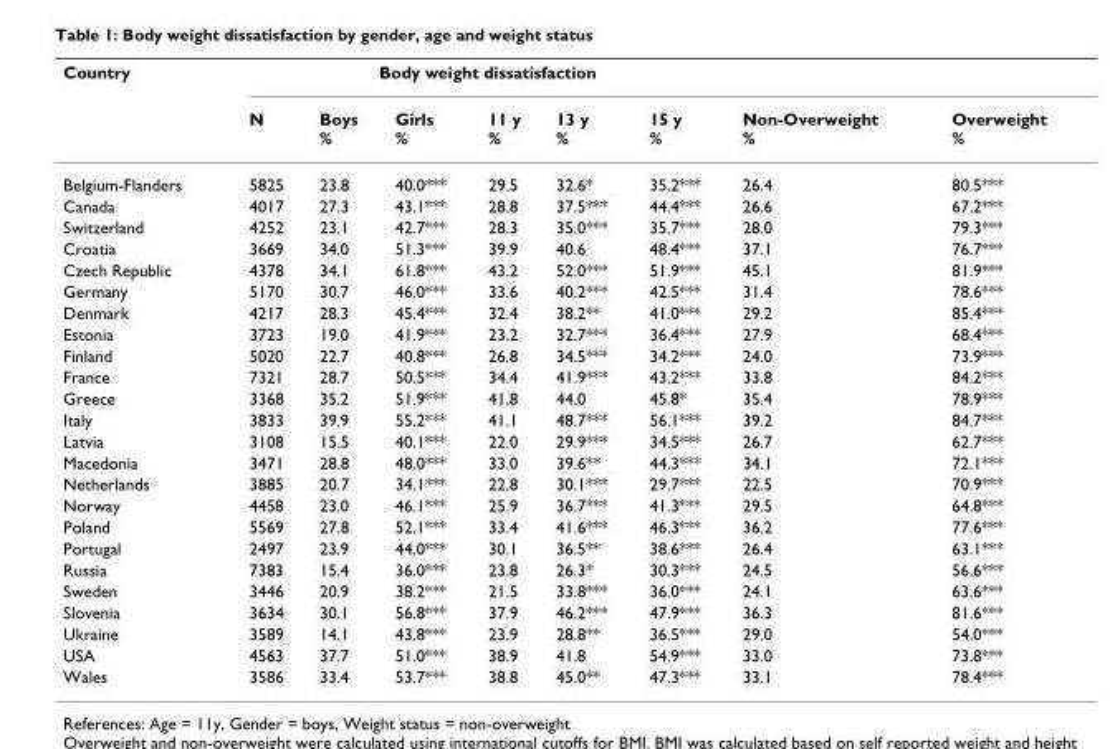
<table><thead><tr><td rowspan="2">Country</td><td colspan="6">Body weight dissatisfaction</td><td rowspan="2">Non-Overweight %</td><td rowspan="2">Overweight %</td></tr><tr><td>N</td><td>Boys %</td><td>Girls %</td><td>11 y %</td><td>13 y %</td><td>15 y %</td></tr></thead><tbody><tr><td>Belgium-Flanders</td><td>5825</td><td>23.8</td><td>40.0***</td><td>29.5</td><td>32.6*</td><td>35.2***</td><td>26.4</td><td>80.5***</td></tr><tr><td>Canada</td><td>4017</td><td>27.3</td><td>43.1***</td><td>28.8</td><td>37.5***</td><td>44.4***</td><td>26.6</td><td>67.2***</td></tr><tr><td>Switzerland</td><td>4252</td><td>23.1</td><td>42.7***</td><td>28.3</td><td>35.0***</td><td>35.7***</td><td>28.0</td><td>79.3***</td></tr><tr><td>Croatia</td><td>3669</td><td>34.0</td><td>51.3***</td><td>39.9</td><td>40.6</td><td>48.4***</td><td>37.1</td><td>76.7***</td></tr><tr><td>Czech Republic</td><td>4378</td><td>34.1</td><td>61.8***</td><td>43.2</td><td>52.0***</td><td>51.9***</td><td>45.1</td><td>81.9***</td></tr><tr><td>Germany</td><td>5170</td><td>30.7</td><td>46.0***</td><td>33.6</td><td>40.2***</td><td>42.5***</td><td>31.4</td><td>78.6***</td></tr><tr><td>Denmark</td><td>4217</td><td>28.3</td><td>45.4***</td><td>32.4</td><td>38.2**</td><td>41.0***</td><td>29.2</td><td>85.4***</td></tr><tr><td>Estonia</td><td>3723</td><td>19.0</td><td>41.9***</td><td>23.2</td><td>32.7***</td><td>36.4***</td><td>27.9</td><td>68.4***</td></tr><tr><td>Finland</td><td>5020</td><td>22.7</td><td>40.8***</td><td>26.8</td><td>34.5***</td><td>34.2***</td><td>24.0</td><td>73.9***</td></tr><tr><td>France</td><td>7321</td><td>28.7</td><td>50.5***</td><td>34.4</td><td>41.9***</td><td>43.2***</td><td>33.8</td><td>84.2***</td></tr><tr><td>Greece</td><td>3368</td><td>35.2</td><td>51.9***</td><td>41.8</td><td>44.0</td><td>45.8*</td><td>35.4</td><td>78.9***</td></tr><tr><td>Italy</td><td>3833</td><td>39.9</td><td>55.2***</td><td>41.1</td><td>48.7***</td><td>56.1***</td><td>39.2</td><td>84.7***</td></tr><tr><td>Latvia</td><td>3108</td><td>15.5</td><td>40.1***</td><td>22.0</td><td>29.9***</td><td>34.5***</td><td>26.7</td><td>62.7***</td></tr><tr><td>Macedonia</td><td>3471</td><td>28.8</td><td>48.0***</td><td>33.0</td><td>39.6**</td><td>44.3***</td><td>34.1</td><td>72.1***</td></tr><tr><td>Netherlands</td><td>3885</td><td>20.7</td><td>34.1***</td><td>22.8</td><td>30.1***</td><td>29.7***</td><td>22.5</td><td>70.9***</td></tr><tr><td>Norway</td><td>4458</td><td>23.0</td><td>46.1***</td><td>25.9</td><td>36.7***</td><td>41.3***</td><td>29.5</td><td>64.8***</td></tr><tr><td>Poland</td><td>5569</td><td>27.8</td><td>52.1***</td><td>33.4</td><td>41.6***</td><td>46.3***</td><td>36.2</td><td>77.6***</td></tr><tr><td>Portugal</td><td>2497</td><td>23.9</td><td>44.0***</td><td>30.1</td><td>36.5**</td><td>38.6***</td><td>26.4</td><td>63.1***</td></tr><tr><td>Russia</td><td>7383</td><td>15.4</td><td>36.0***</td><td>23.8</td><td>26.3*</td><td>30.3***</td><td>24.5</td><td>56.6***</td></tr><tr><td>Sweden</td><td>3446</td><td>20.9</td><td>38.2***</td><td>21.5</td><td>33.8***</td><td>36.0***</td><td>24.1</td><td>63.6***</td></tr><tr><td>Slovenia</td><td>3634</td><td>30.1</td><td>56.8***</td><td>37.9</td><td>46.2***</td><td>47.9***</td><td>36.3</td><td>81.6***</td></tr><tr><td>Ukraine</td><td>3589</td><td>14.1</td><td>43.8***</td><td>23.9</td><td>28.8**</td><td>36.5***</td><td>29.0</td><td>54.0***</td></tr><tr><td>USA</td><td>4563</td><td>37.7</td><td>51.0***</td><td>38.9</td><td>41.8</td><td>54.9***</td><td>33.0</td><td>73.8***</td></tr><tr><td>Wales</td><td>3586</td><td>33.4</td><td>53.7***</td><td>38.8</td><td>45.0**</td><td>47.3***</td><td>33.1</td><td>78.4***</td></tr></tbody></table>